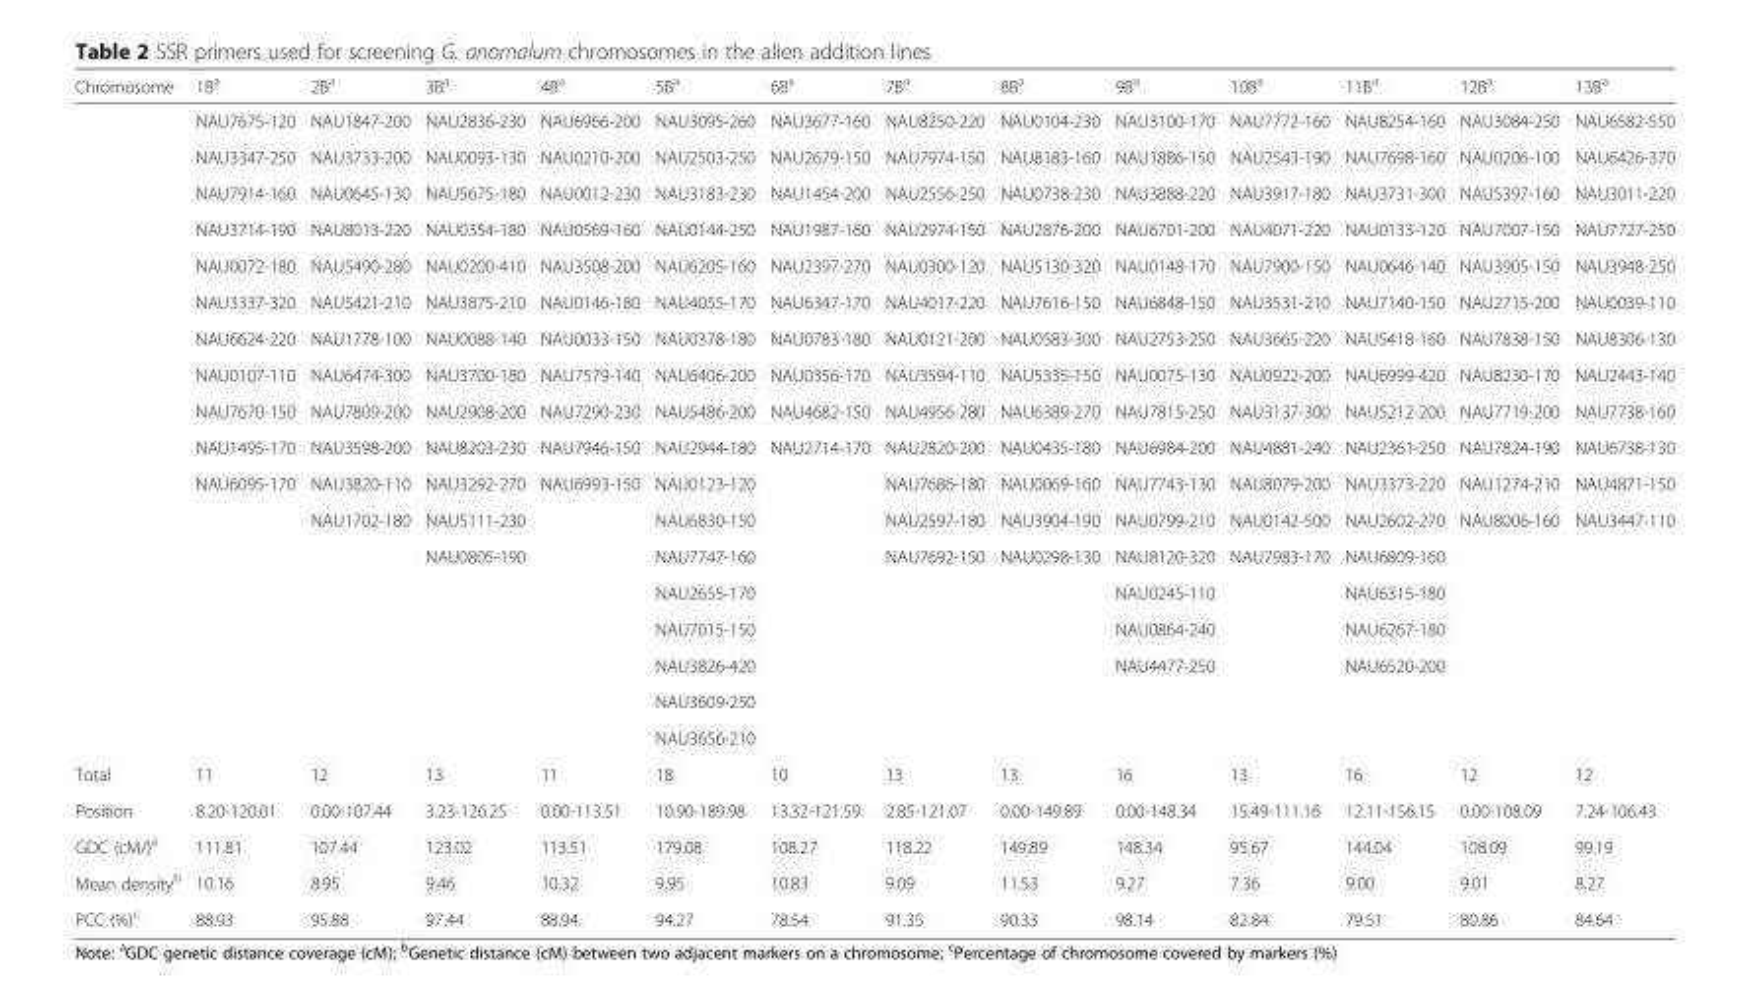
<table><thead><tr><td>Chromosome</td><td>1B<sup>a</sup></td><td>2B<sup>a</sup></td><td>3B<sup>a</sup></td><td>4B<sup>a</sup></td><td>5B<sup>a</sup></td><td>6B<sup>a</sup></td><td>7B<sup>a</sup></td><td>8B<sup>a</sup></td><td>9B<sup>a</sup></td><td>10B<sup>a</sup></td><td>11B<sup>a</sup></td><td>12B<sup>a</sup></td><td>13B<sup>a</sup></td></tr></thead><tbody><tr><td></td><td>NAU7675-120</td><td>NAU1847-200</td><td>NAU2836-230</td><td>NAU6966-200</td><td>NAU3095-260</td><td>NAU3677-160</td><td>NAU8250-220</td><td>NAU0104-230</td><td>NAU3100-170</td><td>NAU7772-160</td><td>NAU8254-160</td><td>NAU3084-250</td><td>NAU6582-550</td></tr><tr><td></td><td>NAU3347-250</td><td>NAU3733-200</td><td>NAU0093-130</td><td>NAU0210-200</td><td>NAU2503-250</td><td>NAU2679-150</td><td>NAU7974-150</td><td>NAU8183-160</td><td>NAU1886-150</td><td>NAU2543-190</td><td>NAU7698-160</td><td>NAU0206-100</td><td>NAU6426-370</td></tr><tr><td></td><td>NAU7914-160</td><td>NAU0645-130</td><td>NAU5675-180</td><td>NAU0012-230</td><td>NAU3183-230</td><td>NAU1454-200</td><td>NAU2556-250</td><td>NAU0738-230</td><td>NAU3888-220</td><td>NAU3917-180</td><td>NAU3731-300</td><td>NAU5397-160</td><td>NAU3011-220</td></tr><tr><td></td><td>NAU3714-190</td><td>NAU8013-220</td><td>NAU0354-180</td><td>NAU0569-160</td><td>NAU0144-250</td><td>NAU1987-160</td><td>NAU2974-150</td><td>NAU2876-200</td><td>NAU6701-200</td><td>NAU4071-220</td><td>NAU0133-120</td><td>NAU7007-150</td><td>NAU7727-250</td></tr><tr><td></td><td>NAU0072-180</td><td>NAU5490-280</td><td>NAU0200-410</td><td>NAU3508-200</td><td>NAU6205-160</td><td>NAU2397-270</td><td>NAU0300-120</td><td>NAU5130-320</td><td>NAU0148-170</td><td>NAU7900-150</td><td>NAU0646-140</td><td>NAU3905-150</td><td>NAU3948-250</td></tr><tr><td></td><td>NAU3337-320</td><td>NAU5421-210</td><td>NAU3875-210</td><td>NAU0146-180</td><td>NAU4055-170</td><td>NAU6347-170</td><td>NAU4017-220</td><td>NAU7616-150</td><td>NAU6848-150</td><td>NAU3531-210</td><td>NAU7140-150</td><td>NAU2715-200</td><td>NAU0039-110</td></tr><tr><td></td><td>NAU6624-220</td><td>NAU1778-100</td><td>NAU0088-140</td><td>NAU0033-150</td><td>NAU0378-180</td><td>NAU0783-180</td><td>NAU0121-200</td><td>NAU0583-300</td><td>NAU2753-250</td><td>NAU3665-220</td><td>NAU5418-160</td><td>NAU7838-150</td><td>NAU8306-130</td></tr><tr><td></td><td>NAU0107-110</td><td>NAU6474-300</td><td>NAU3700-180</td><td>NAU7579-140</td><td>NAU6406-200</td><td>NAU0356-170</td><td>NAU3594-110</td><td>NAU5335-150</td><td>NAU0075-130</td><td>NAU0922-200</td><td>NAU6999-420</td><td>NAU8230-170</td><td>NAU2443-140</td></tr><tr><td></td><td>NAU7670-150</td><td>NAU7809-200</td><td>NAU2908-200</td><td>NAU7290-230</td><td>NAU5486-200</td><td>NAU4682-150</td><td>NAU4956-280</td><td>NAU6389-270</td><td>NAU7815-250</td><td>NAU3137-300</td><td>NAU5212-200</td><td>NAU7719-200</td><td>NAU7738-160</td></tr><tr><td></td><td>NAU1495-170</td><td>NAU3598-200</td><td>NAU8203-230</td><td>NAU7946-150</td><td>NAU2944-180</td><td>NAU2714-170</td><td>NAU2820-200</td><td>NAU0435-180</td><td>NAU6984-200</td><td>NAU4881-240</td><td>NAU2361-250</td><td>NAU7824-190</td><td>NAU6738-130</td></tr><tr><td></td><td>NAU6095-170</td><td>NAU3820-110</td><td>NAU3292-270</td><td>NAU6993-150</td><td>NAU0123-120</td><td></td><td>NAU7686-180</td><td>NAU0069-160</td><td>NAU7743-130</td><td>NAU8079-200</td><td>NAU3373-220</td><td>NAU1274-210</td><td>NAU4871-150</td></tr><tr><td></td><td></td><td>NAU1702-180</td><td>NAU5111-230</td><td></td><td>NAU6830-150</td><td></td><td>NAU2597-180</td><td>NAU3904-190</td><td>NAU0799-210</td><td>NAU0142-500</td><td>NAU2602-270</td><td>NAU8006-160</td><td>NAU3447-110</td></tr><tr><td></td><td></td><td></td><td>NAU0805-190</td><td></td><td>NAU7747-160</td><td></td><td>NAU7692-150</td><td>NAU0298-130</td><td>NAU8120-320</td><td>NAU7983-170</td><td>NAU6809-160</td><td></td><td></td></tr><tr><td></td><td></td><td></td><td></td><td></td><td>NAU2655-170</td><td></td><td></td><td></td><td>NAU0245-110</td><td></td><td>NAU6315-180</td><td></td><td></td></tr><tr><td></td><td></td><td></td><td></td><td></td><td>NAU7015-150</td><td></td><td></td><td></td><td>NAU0864-240</td><td></td><td>NAU6267-180</td><td></td><td></td></tr><tr><td></td><td></td><td></td><td></td><td></td><td>NAU3826-420</td><td></td><td></td><td></td><td>NAU4477-250</td><td></td><td>NAU6520-200</td><td></td><td></td></tr><tr><td></td><td></td><td></td><td></td><td></td><td>NAU3609-250</td><td></td><td></td><td></td><td></td><td></td><td></td><td></td><td></td></tr><tr><td></td><td></td><td></td><td></td><td></td><td>NAU3656-210</td><td></td><td></td><td></td><td></td><td></td><td></td><td></td><td></td></tr><tr><td>Total</td><td>11</td><td>12</td><td>13</td><td>11</td><td>18</td><td>10</td><td>13</td><td>13</td><td>16</td><td>13</td><td>16</td><td>12</td><td>12</td></tr><tr><td>Position</td><td>8.20-120.01</td><td>0.00-107.44</td><td>3.23-126.25</td><td>0.00-113.51</td><td>10.90-189.98</td><td>13.32-121.59</td><td>2.85-121.07</td><td>0.00-149.89</td><td>0.00-148.34</td><td>15.49-111.16</td><td>12.11-156.15</td><td>0.00-108.09</td><td>7.24-106.43</td></tr><tr><td>GDC (cM/)<sup>a</sup></td><td>111.81</td><td>107.44</td><td>123.02</td><td>113.51</td><td>179.08</td><td>108.27</td><td>118.22</td><td>149.89</td><td>148.34</td><td>95.67</td><td>144.04</td><td>108.09</td><td>99.19</td></tr><tr><td>Mean density<sup>b</sup></td><td>10.16</td><td>8.95</td><td>9.46</td><td>10.32</td><td>9.95</td><td>10.83</td><td>9.09</td><td>11.53</td><td>9.27</td><td>7.36</td><td>9.00</td><td>9.01</td><td>8.27</td></tr><tr><td>PCC (%)<sup>c</sup></td><td>88.93</td><td>95.88</td><td>97.44</td><td>88.94</td><td>94.27</td><td>78.54</td><td>91.35</td><td>90.33</td><td>98.14</td><td>82.84</td><td>79.51</td><td>80.86</td><td>84.64</td></tr></tbody></table>